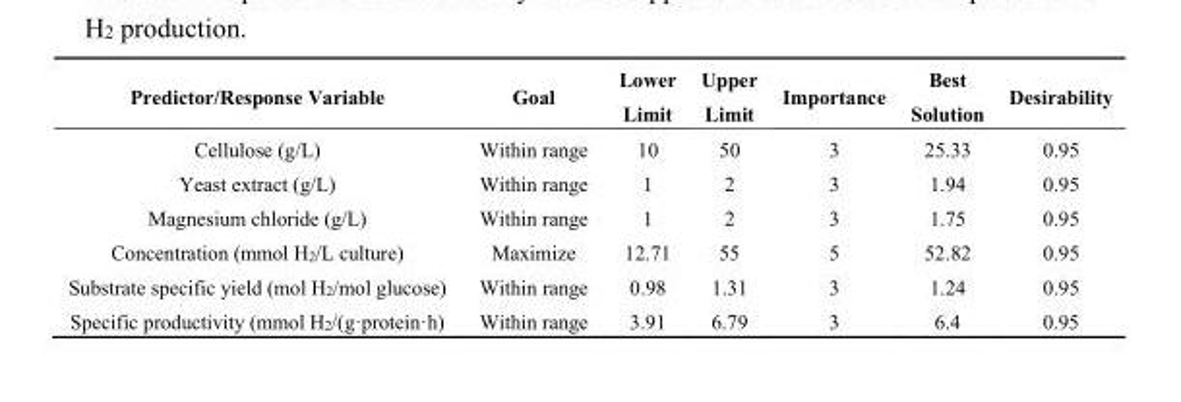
<table><thead><tr><td>Predictor/Response Variable</td><td>Goal</td><td>Lower Limit</td><td>Upper Limit</td><td>Importance</td><td>Best Solution</td><td>Desirability</td></tr></thead><tbody><tr><td>Cellulose (g/L)</td><td>Within range</td><td>10</td><td>50</td><td>3</td><td>25.33</td><td>0.95</td></tr><tr><td>Yeast extract (g/L)</td><td>Within range</td><td>1</td><td>2</td><td>3</td><td>1.94</td><td>0.95</td></tr><tr><td>Magnesium chloride (g/L)</td><td>Within range</td><td>1</td><td>2</td><td>3</td><td>1.75</td><td>0.95</td></tr><tr><td>Concentration (mmol H<sub>2</sub>/L culture)</td><td>Maximize</td><td>12.71</td><td>55</td><td>5</td><td>52.82</td><td>0.95</td></tr><tr><td>Substrate specific yield (mol H<sub>2</sub>/mol glucose)</td><td>Within range</td><td>0.98</td><td>1.31</td><td>3</td><td>1.24</td><td>0.95</td></tr><tr><td>Specific productivity (mmol H<sub>2</sub>/(g·protein·h)</td><td>Within range</td><td>3.91</td><td>6.79</td><td>3</td><td>6.4</td><td>0.95</td></tr></tbody></table>